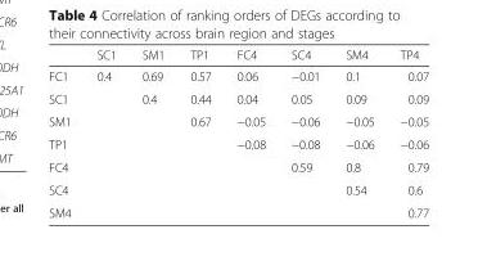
<table><thead><tr><td></td><td>SC1</td><td>SM1</td><td>TP1</td><td>FC4</td><td>SC4</td><td>SM4</td><td>TP4</td></tr></thead><tbody><tr><td>FC1</td><td>0.4</td><td>0.69</td><td>0.57</td><td>0.06</td><td>−0.01</td><td>0.1</td><td>0.07</td></tr><tr><td>SC1</td><td></td><td>0.4</td><td>0.44</td><td>0.04</td><td>0.05</td><td>0.09</td><td>0.09</td></tr><tr><td>SM1</td><td></td><td></td><td>0.67</td><td>−0.05</td><td>−0.06</td><td>−0.05</td><td>−0.05</td></tr><tr><td>TP1</td><td></td><td></td><td></td><td>−0.08</td><td>−0.08</td><td>−0.06</td><td>−0.06</td></tr><tr><td>FC4</td><td></td><td></td><td></td><td></td><td>0.59</td><td>0.8</td><td>0.79</td></tr><tr><td>SC4</td><td></td><td></td><td></td><td></td><td></td><td>0.54</td><td>0.6</td></tr><tr><td>SM4</td><td></td><td></td><td></td><td></td><td></td><td></td><td>0.77</td></tr></tbody></table>